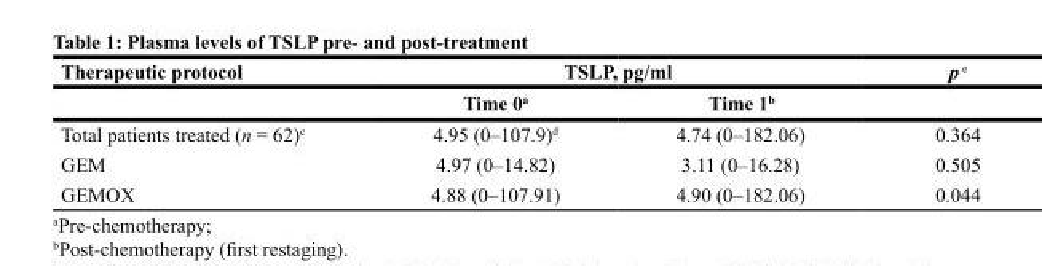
<table><thead><tr><td rowspan="2">Therapeutic protocol</td><td colspan="2">TSLP, pg/ml</td><td rowspan="2">p <sup>e</sup></td></tr><tr><td>Time 0<sup>a</sup></td><td>Time 1<sup>b</sup></td></tr></thead><tbody><tr><td>Total patients treated (n = 62)<sup>c</sup></td><td>4.95 (0–107.9)<sup>d</sup></td><td>4.74 (0–182.06)</td><td>0.364</td></tr><tr><td>GEM</td><td>4.97 (0–14.82)</td><td>3.11 (0–16.28)</td><td>0.505</td></tr><tr><td>GEMOX</td><td>4.88 (0–107.91)</td><td>4.90 (0–182.06)</td><td>0.044</td></tr></tbody></table>